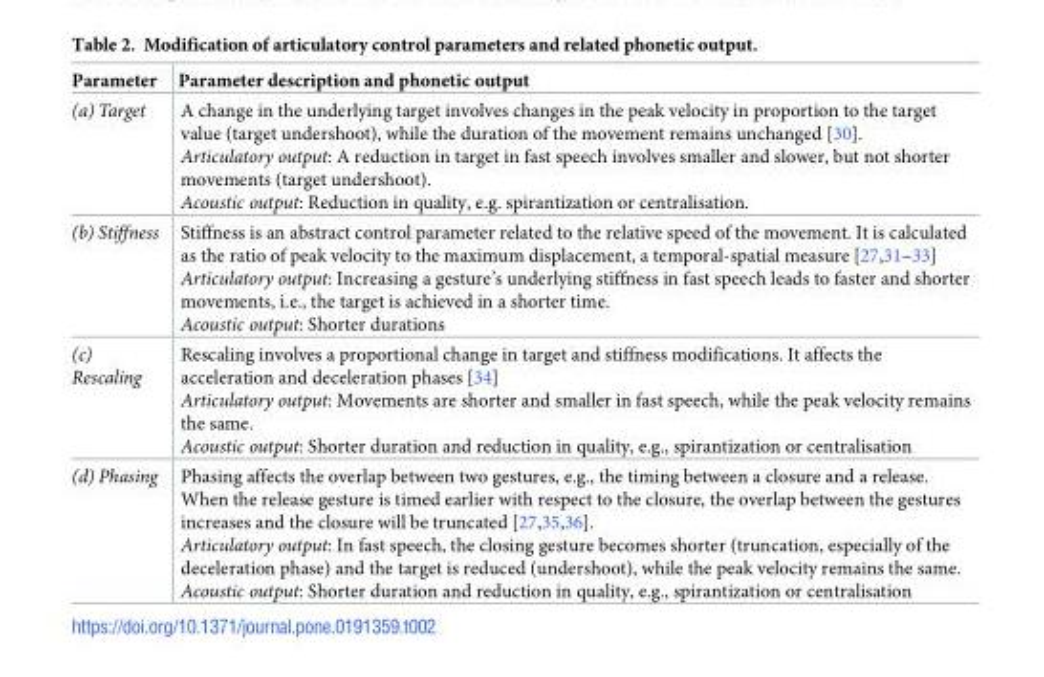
<table><thead><tr><td>Parameter</td><td>Parameter description and phonetic output</td></tr></thead><tbody><tr><td>(a) Target</td><td>A change in the underlying target involves changes in the peak velocity in proportion to the target value (target undershoot), while the duration of the movement remains unchanged [30]. Articulatory output: A reduction in target in fast speech involves smaller and slower, but not shorter movements (target undershoot). Acoustic output: Reduction in quality, e.g. spirantization or centralisation.</td></tr><tr><td>(b) Stiffness</td><td>Stiffness is an abstract control parameter related to the relative speed of the movement. It is calculated as the ratio of peak velocity to the maximum displacement, a temporal-spatial measure [27,31–33] Articulatory output: Increasing a gesture’s underlying stiffness in fast speech leads to faster and shorter movements, i.e., the target is achieved in a shorter time. Acoustic output: Shorter durations</td></tr><tr><td>(c) Rescaling</td><td>Rescaling involves a proportional change in target and stiffness modifications. It affects the acceleration and deceleration phases [34] Articulatory output: Movements are shorter and smaller in fast speech, while the peak velocity remains the same. Acoustic output: Shorter duration and reduction in quality, e.g., spirantization or centralisation</td></tr><tr><td>(d) Phasing</td><td>Phasing affects the overlap between two gestures, e.g., the timing between a closure and a release. When the release gesture is timed earlier with respect to the closure, the overlap between the gestures increases and the closure will be truncated [27,35,36]. Articulatory output: In fast speech, the closing gesture becomes shorter (truncation, especially of the deceleration phase) and the target is reduced (undershoot), while the peak velocity remains the same. Acoustic output: Shorter duration and reduction in quality, e.g., spirantization or centralisation</td></tr></tbody></table>